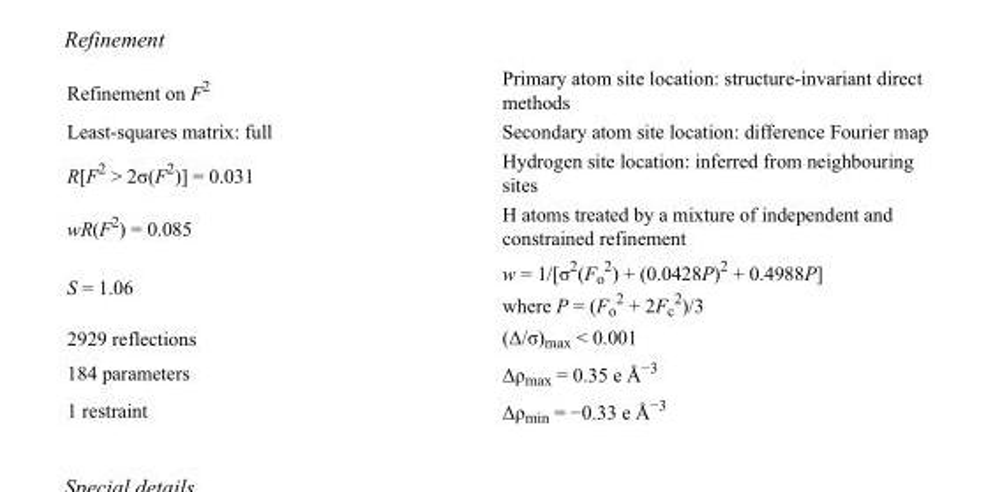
<table><tbody><tr><td>Refinement on F<sup>2</sup></td><td>Primary atom site location: structure-invariant direct methods</td></tr><tr><td>Least-squares matrix: full</td><td>Secondary atom site location: difference Fourier map</td></tr><tr><td>R[F<sup>2</sup> &gt; 2σ(F<sup>2</sup>)] = 0.031</td><td>Hydrogen site location: inferred from neighbouring sites</td></tr><tr><td>wR(F<sup>2</sup>) = 0.085</td><td>H atoms treated by a mixture of independent and constrained refinement</td></tr><tr><td>S = 1.06</td><td>w = 1/[σ<sup>2</sup>(F<sub>o</sub> <sup>2</sup>) + (0.0428P)<sup>2</sup> + 0.4988P] where P = (F<sub>o</sub> <sup>2</sup> + 2F<sub>c</sub> <sup>2</sup>)/3</td></tr><tr><td>2929 reflections</td><td>(Δ/σ)<sub>max</sub> &lt; 0.001</td></tr><tr><td>184 parameters</td><td>Δρ<sub>max</sub> = 0.35 e Å<sup>−3</sup></td></tr><tr><td>1 restraint</td><td>Δρ<sub>min</sub> = −0.33 e Å<sup>−3</sup></td></tr></tbody></table>